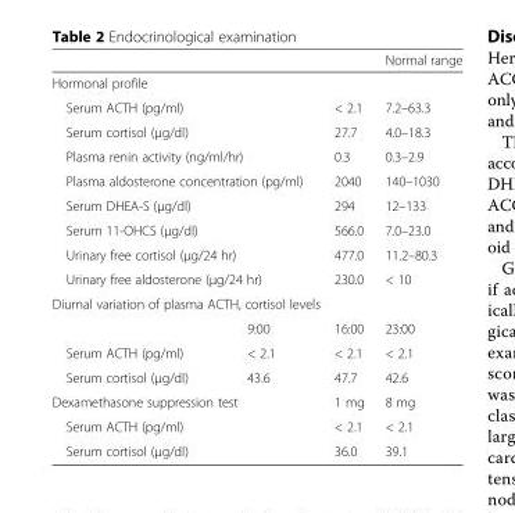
<table><thead><tr><td></td><td></td><td></td><td>Normal range</td></tr></thead><tbody><tr><td colspan="4">Hormonal profile</td></tr><tr><td colspan="2">Serum ACTH (pg/ml)</td><td>&lt; 2.1</td><td>7.2–63.3</td></tr><tr><td colspan="2">Serum cortisol (μg/dl)</td><td>27.7</td><td>4.0–18.3</td></tr><tr><td colspan="2">Plasma renin activity (ng/ml/hr)</td><td>0.3</td><td>0.3–2.9</td></tr><tr><td colspan="2">Plasma aldosterone concentration (pg/ml)</td><td>2040</td><td>140–1030</td></tr><tr><td colspan="2">Serum DHEA-S (μg/dl)</td><td>294</td><td>12–133</td></tr><tr><td colspan="2">Serum 11-OHCS (μg/dl)</td><td>566.0</td><td>7.0–23.0</td></tr><tr><td colspan="2">Urinary free cortisol (μg/24 hr)</td><td>477.0</td><td>11.2–80.3</td></tr><tr><td colspan="2">Urinary free aldosterone (μg/24 hr)</td><td>230.0</td><td>&lt; 10</td></tr><tr><td colspan="4">Diurnal variation of plasma ACTH, cortisol levels</td></tr><tr><td></td><td>9:00</td><td>16:00</td><td>23:00</td></tr><tr><td>Serum ACTH (pg/ml)</td><td>&lt; 2.1</td><td>&lt; 2.1</td><td>&lt; 2.1</td></tr><tr><td>Serum cortisol (μg/dl)</td><td>43.6</td><td>47.7</td><td>42.6</td></tr><tr><td colspan="2">Dexamethasone suppression test</td><td>1 mg</td><td>8 mg</td></tr><tr><td colspan="2">Serum ACTH (pg/ml)</td><td>&lt; 2.1</td><td>&lt; 2.1</td></tr><tr><td colspan="2">Serum cortisol (μg/dl)</td><td>36.0</td><td>39.1</td></tr></tbody></table>